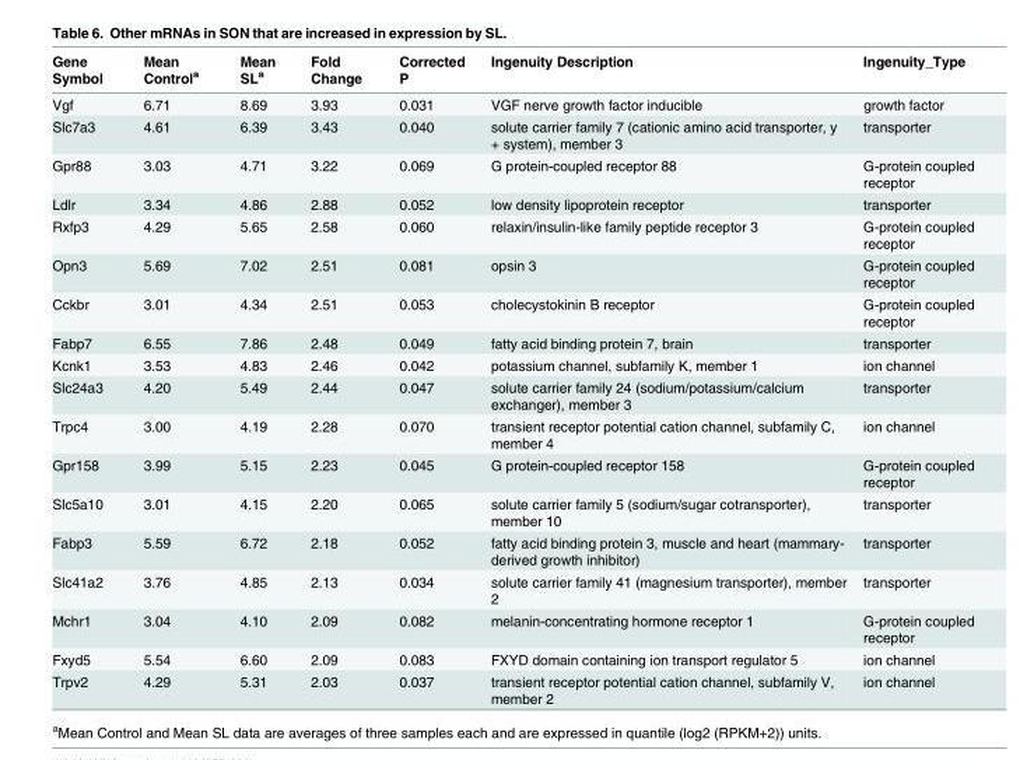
<table><thead><tr><td>Gene Symbol</td><td>Mean Control<sup>a</sup></td><td>Mean SL<sup>a</sup></td><td>Fold Change</td><td>Corrected P</td><td>Ingenuity Description</td><td>Ingenuity_Type</td></tr></thead><tbody><tr><td>Vgf</td><td>6.71</td><td>8.69</td><td>3.93</td><td>0.031</td><td>VGF nerve growth factor inducible</td><td>growth factor</td></tr><tr><td>Slc7a3</td><td>4.61</td><td>6.39</td><td>3.43</td><td>0.040</td><td>solute carrier family 7 (cationic amino acid transporter, y + system), member 3</td><td>transporter</td></tr><tr><td>Gpr88</td><td>3.03</td><td>4.71</td><td>3.22</td><td>0.069</td><td>G protein-coupled receptor 88</td><td>G-protein coupled receptor</td></tr><tr><td>Ldlr</td><td>3.34</td><td>4.86</td><td>2.88</td><td>0.052</td><td>low density lipoprotein receptor</td><td>transporter</td></tr><tr><td>Rxfp3</td><td>4.29</td><td>5.65</td><td>2.58</td><td>0.060</td><td>relaxin/insulin-like family peptide receptor 3</td><td>G-protein coupled receptor</td></tr><tr><td>Opn3</td><td>5.69</td><td>7.02</td><td>2.51</td><td>0.081</td><td>opsin 3</td><td>G-protein coupled receptor</td></tr><tr><td>Cckbr</td><td>3.01</td><td>4.34</td><td>2.51</td><td>0.053</td><td>cholecystokinin B receptor</td><td>G-protein coupled receptor</td></tr><tr><td>Fabp7</td><td>6.55</td><td>7.86</td><td>2.48</td><td>0.049</td><td>fatty acid binding protein 7, brain</td><td>transporter</td></tr><tr><td>Kcnk1</td><td>3.53</td><td>4.83</td><td>2.46</td><td>0.042</td><td>potassium channel, subfamily K, member 1</td><td>ion channel</td></tr><tr><td>Slc24a3</td><td>4.20</td><td>5.49</td><td>2.44</td><td>0.047</td><td>solute carrier family 24 (sodium/potassium/calcium exchanger), member 3</td><td>transporter</td></tr><tr><td>Trpc4</td><td>3.00</td><td>4.19</td><td>2.28</td><td>0.070</td><td>transient receptor potential cation channel, subfamily C, member 4</td><td>ion channel</td></tr><tr><td>Gpr158</td><td>3.99</td><td>5.15</td><td>2.23</td><td>0.045</td><td>G protein-coupled receptor 158</td><td>G-protein coupled receptor</td></tr><tr><td>Slc5a10</td><td>3.01</td><td>4.15</td><td>2.20</td><td>0.065</td><td>solute carrier family 5 (sodium/sugar cotransporter), member 10</td><td>transporter</td></tr><tr><td>Fabp3</td><td>5.59</td><td>6.72</td><td>2.18</td><td>0.052</td><td>fatty acid binding protein 3, muscle and heart (mammary- derived growth inhibitor)</td><td>transporter</td></tr><tr><td>Slc41a2</td><td>3.76</td><td>4.85</td><td>2.13</td><td>0.034</td><td>solute carrier family 41 (magnesium transporter), member 2</td><td>transporter</td></tr><tr><td>Mchr1</td><td>3.04</td><td>4.10</td><td>2.09</td><td>0.082</td><td>melanin-concentrating hormone receptor 1</td><td>G-protein coupled receptor</td></tr><tr><td>Fxyd5</td><td>5.54</td><td>6.60</td><td>2.09</td><td>0.083</td><td>FXYD domain containing ion transport regulator 5</td><td>ion channel</td></tr><tr><td>Trpv2</td><td>4.29</td><td>5.31</td><td>2.03</td><td>0.037</td><td>transient receptor potential cation channel, subfamily V, member 2</td><td>ion channel</td></tr></tbody></table>